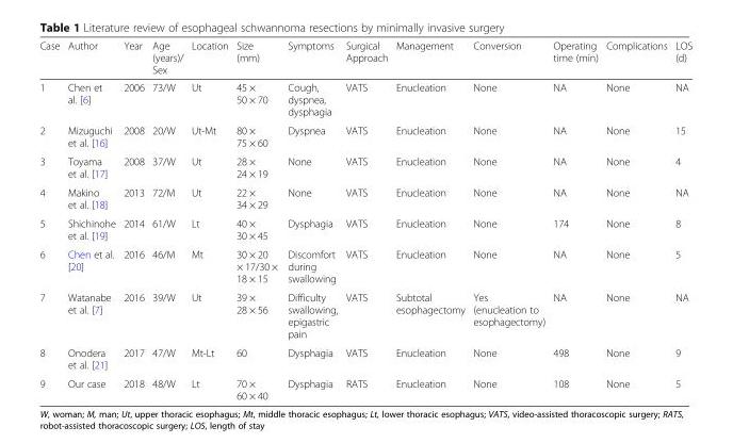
<table><thead><tr><td>Case</td><td>Author</td><td>Year</td><td>Age (years)/ Sex</td><td>Location</td><td>Size (mm)</td><td>Symptoms</td><td>Surgical Approach</td><td>Management</td><td>Conversion</td><td>Operating time (min)</td><td>Complications</td><td>LOS (d)</td></tr></thead><tbody><tr><td>1</td><td>Chen et al. [6]</td><td>2006</td><td>73/W</td><td>Ut</td><td>45 × 50 × 70</td><td>Cough, dyspnea, dysphagia</td><td>VATS</td><td>Enucleation</td><td>None</td><td>NA</td><td>None</td><td>NA</td></tr><tr><td>2</td><td>Mizuguchi et al. [16]</td><td>2008</td><td>20/W</td><td>Ut-Mt</td><td>80 × 75 × 60</td><td>Dyspnea</td><td>VATS</td><td>Enucleation</td><td>None</td><td>NA</td><td>None</td><td>15</td></tr><tr><td>3</td><td>Toyama et al. [17]</td><td>2008</td><td>37/W</td><td>Ut</td><td>28 × 24 × 19</td><td>None</td><td>VATS</td><td>Enucleation</td><td>None</td><td>NA</td><td>None</td><td>4</td></tr><tr><td>4</td><td>Makino et al. [18]</td><td>2013</td><td>72/M</td><td>Ut</td><td>22 × 34 × 29</td><td>None</td><td>VATS</td><td>Enucleation</td><td>None</td><td>NA</td><td>None</td><td>NA</td></tr><tr><td>5</td><td>Shichinohe et al. [19]</td><td>2014</td><td>61/W</td><td>Lt</td><td>40 × 30 × 45</td><td>Dysphagia</td><td>VATS</td><td>Enucleation</td><td>None</td><td>174</td><td>None</td><td>8</td></tr><tr><td>6</td><td>Chen et al. [20]</td><td>2016</td><td>46/M</td><td>Mt</td><td>30 × 20 × 17/30 × 18 × 15</td><td>Discomfort during swallowing</td><td>VATS</td><td>Enucleation</td><td>None</td><td>NA</td><td>None</td><td>5</td></tr><tr><td>7</td><td>Watanabe et al. [7]</td><td>2016</td><td>39/W</td><td>Ut</td><td>39 × 28 × 56</td><td>Difficulty swallowing, epigastric pain</td><td>VATS</td><td>Subtotal esophagectomy</td><td>Yes (enucleation to esophagectomy)</td><td>NA</td><td>None</td><td>NA</td></tr><tr><td>8</td><td>Onodera et al. [21]</td><td>2017</td><td>47/W</td><td>Mt-Lt</td><td>60</td><td>Dysphagia</td><td>VATS</td><td>Enucleation</td><td>None</td><td>498</td><td>None</td><td>9</td></tr><tr><td>9</td><td>Our case</td><td>2018</td><td>48/W</td><td>Lt</td><td>70 × 60 × 40</td><td>Dysphagia</td><td>RATS</td><td>Enucleation</td><td>None</td><td>108</td><td>None</td><td>5</td></tr></tbody></table>